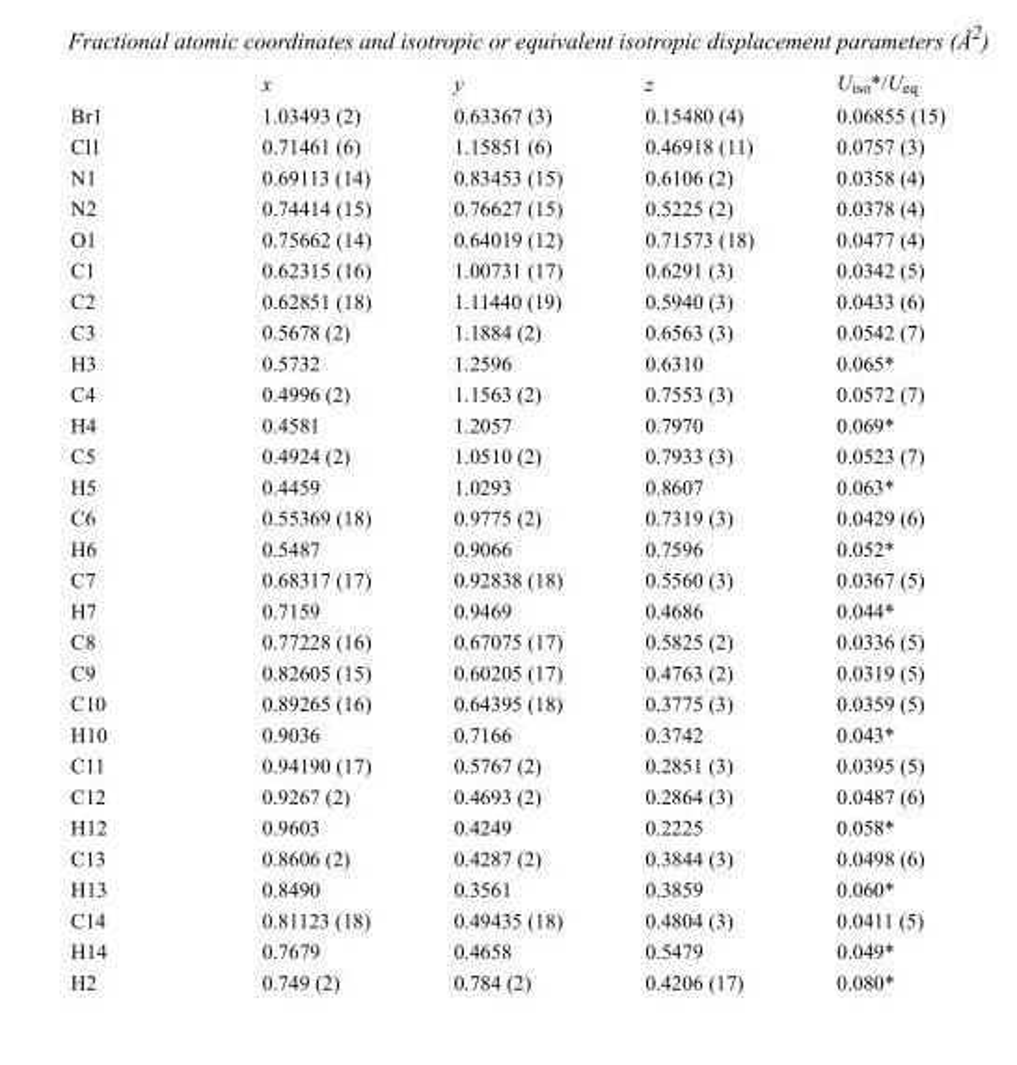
<table><thead><tr><td></td><td>x</td><td>y</td><td>z</td><td>U<sub>iso</sub>*/U<sub>eq</sub></td></tr></thead><tbody><tr><td>Br1</td><td>1.03493 (2)</td><td>0.63367 (3)</td><td>0.15480 (4)</td><td>0.06855 (15)</td></tr><tr><td>Cl1</td><td>0.71461 (6)</td><td>1.15851 (6)</td><td>0.46918 (11)</td><td>0.0757 (3)</td></tr><tr><td>N1</td><td>0.69113 (14)</td><td>0.83453 (15)</td><td>0.6106 (2)</td><td>0.0358 (4)</td></tr><tr><td>N2</td><td>0.74414 (15)</td><td>0.76627 (15)</td><td>0.5225 (2)</td><td>0.0378 (4)</td></tr><tr><td>O1</td><td>0.75662 (14)</td><td>0.64019 (12)</td><td>0.71573 (18)</td><td>0.0477 (4)</td></tr><tr><td>C1</td><td>0.62315 (16)</td><td>1.00731 (17)</td><td>0.6291 (3)</td><td>0.0342 (5)</td></tr><tr><td>C2</td><td>0.62851 (18)</td><td>1.11440 (19)</td><td>0.5940 (3)</td><td>0.0433 (6)</td></tr><tr><td>C3</td><td>0.5678 (2)</td><td>1.1884 (2)</td><td>0.6563 (3)</td><td>0.0542 (7)</td></tr><tr><td>H3</td><td>0.5732</td><td>1.2596</td><td>0.6310</td><td>0.065*</td></tr><tr><td>C4</td><td>0.4996 (2)</td><td>1.1563 (2)</td><td>0.7553 (3)</td><td>0.0572 (7)</td></tr><tr><td>H4</td><td>0.4581</td><td>1.2057</td><td>0.7970</td><td>0.069*</td></tr><tr><td>C5</td><td>0.4924 (2)</td><td>1.0510 (2)</td><td>0.7933 (3)</td><td>0.0523 (7)</td></tr><tr><td>H5</td><td>0.4459</td><td>1.0293</td><td>0.8607</td><td>0.063*</td></tr><tr><td>C6</td><td>0.55369 (18)</td><td>0.9775 (2)</td><td>0.7319 (3)</td><td>0.0429 (6)</td></tr><tr><td>H6</td><td>0.5487</td><td>0.9066</td><td>0.7596</td><td>0.052*</td></tr><tr><td>C7</td><td>0.68317 (17)</td><td>0.92838 (18)</td><td>0.5560 (3)</td><td>0.0367 (5)</td></tr><tr><td>H7</td><td>0.7159</td><td>0.9469</td><td>0.4686</td><td>0.044*</td></tr><tr><td>C8</td><td>0.77228 (16)</td><td>0.67075 (17)</td><td>0.5825 (2)</td><td>0.0336 (5)</td></tr><tr><td>C9</td><td>0.82605 (15)</td><td>0.60205 (17)</td><td>0.4763 (2)</td><td>0.0319 (5)</td></tr><tr><td>C10</td><td>0.89265 (16)</td><td>0.64395 (18)</td><td>0.3775 (3)</td><td>0.0359 (5)</td></tr><tr><td>H10</td><td>0.9036</td><td>0.7166</td><td>0.3742</td><td>0.043*</td></tr><tr><td>C11</td><td>0.94190 (17)</td><td>0.5767 (2)</td><td>0.2851 (3)</td><td>0.0395 (5)</td></tr><tr><td>C12</td><td>0.9267 (2)</td><td>0.4693 (2)</td><td>0.2864 (3)</td><td>0.0487 (6)</td></tr><tr><td>H12</td><td>0.9603</td><td>0.4249</td><td>0.2225</td><td>0.058*</td></tr><tr><td>C13</td><td>0.8606 (2)</td><td>0.4287 (2)</td><td>0.3844 (3)</td><td>0.0498 (6)</td></tr><tr><td>H13</td><td>0.8490</td><td>0.3561</td><td>0.3859</td><td>0.060*</td></tr><tr><td>C14</td><td>0.81123 (18)</td><td>0.49435 (18)</td><td>0.4804 (3)</td><td>0.0411 (5)</td></tr><tr><td>H14</td><td>0.7679</td><td>0.4658</td><td>0.5479</td><td>0.049*</td></tr><tr><td>H2</td><td>0.749 (2)</td><td>0.784 (2)</td><td>0.4206 (17)</td><td>0.080*</td></tr></tbody></table>